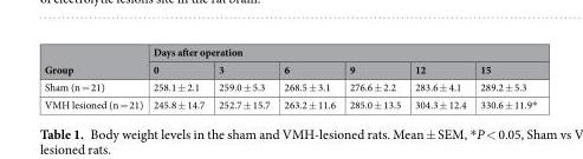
<table><thead><tr><td rowspan="2">Group</td><td colspan="6">Days after operation</td></tr><tr><td>0</td><td>3</td><td>6</td><td>9</td><td>12</td><td>15</td></tr></thead><tbody><tr><td>Sham (n = 21)</td><td>258.1 ± 2.1</td><td>259.0 ± 5.3</td><td>268.5 ± 3.1</td><td>276.6 ± 2.2</td><td>283.6 ± 4.1</td><td>289.2 ± 5.3</td></tr><tr><td>VMH lesioned (n = 21)</td><td>245.8 ± 14.7</td><td>252.7 ± 15.7</td><td>263.2 ± 11.6</td><td>285.0 ± 13.5</td><td>304.3 ± 12.4</td><td>330.6 ± 11.9*</td></tr></tbody></table>